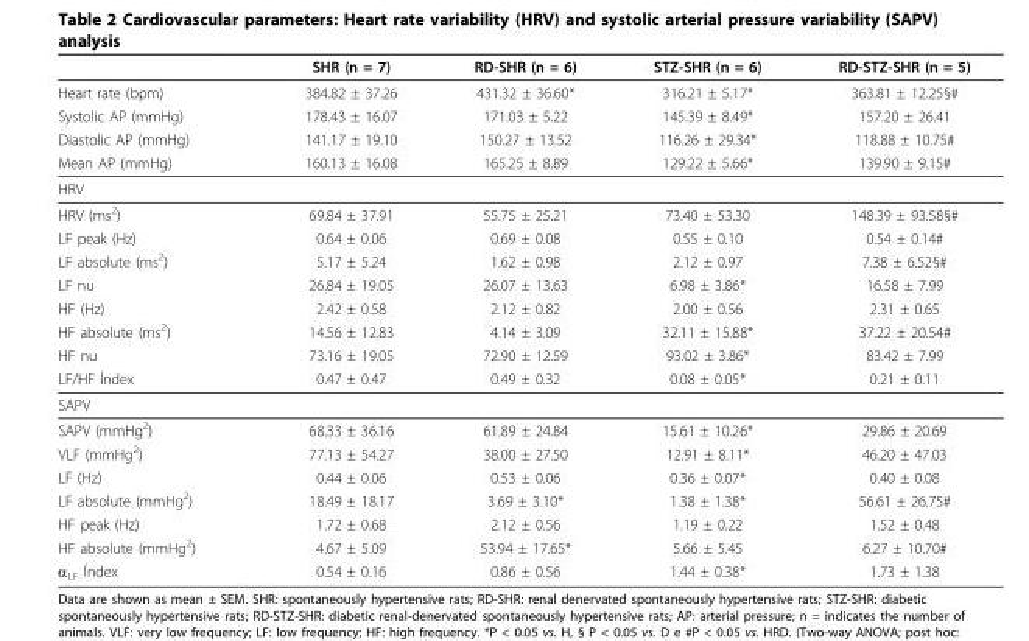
<table><thead><tr><td></td><td>SHR (n = 7)</td><td>RD-SHR (n = 6)</td><td>STZ-SHR (n = 6)</td><td>RD-STZ-SHR (n = 5)</td></tr></thead><tbody><tr><td>Heart rate (bpm)</td><td>384.82 ± 37.26</td><td>431.32 ± 36.60*</td><td>316.21 ± 5.17*</td><td>363.81 ± 12.25§#</td></tr><tr><td>Systolic AP (mmHg)</td><td>178.43 ± 16.07</td><td>171.03 ± 5.22</td><td>145.39 ± 8.49*</td><td>157.20 ± 26.41</td></tr><tr><td>Diastolic AP (mmHg)</td><td>141.17 ± 19.10</td><td>150.27 ± 13.52</td><td>116.26 ± 29.34*</td><td>118.88 ± 10.75#</td></tr><tr><td>Mean AP (mmHg)</td><td>160.13 ± 16.08</td><td>165.25 ± 8.89</td><td>129.22 ± 5.66*</td><td>139.90 ± 9.15#</td></tr><tr><td colspan="5">HRV</td></tr><tr><td>HRV (ms<sup>2</sup>)</td><td>69.84 ± 37.91</td><td>55.75 ± 25.21</td><td>73.40 ± 53.30</td><td>148.39 ± 93.58§#</td></tr><tr><td>LF peak (Hz)</td><td>0.64 ± 0.06</td><td>0.69 ± 0.08</td><td>0.55 ± 0.10</td><td>0.54 ± 0.14#</td></tr><tr><td>LF absolute (ms<sup>2</sup>)</td><td>5.17 ± 5.24</td><td>1.62 ± 0.98</td><td>2.12 ± 0.97</td><td>7.38 ± 6.52§#</td></tr><tr><td>LF nu</td><td>26.84 ± 19.05</td><td>26.07 ± 13.63</td><td>6.98 ± 3.86*</td><td>16.58 ± 7.99</td></tr><tr><td>HF (Hz)</td><td>2.42 ± 0.58</td><td>2.12 ± 0.82</td><td>2.00 ± 0.56</td><td>2.31 ± 0.65</td></tr><tr><td>HF absolute (ms<sup>2</sup>)</td><td>14.56 ± 12.83</td><td>4.14 ± 3.09</td><td>32.11 ± 15.88*</td><td>37.22 ± 20.54#</td></tr><tr><td>HF nu</td><td>73.16 ± 19.05</td><td>72.90 ± 12.59</td><td>93.02 ± 3.86*</td><td>83.42 ± 7.99</td></tr><tr><td>LF/HF Índex</td><td>0.47 ± 0.47</td><td>0.49 ± 0.32</td><td>0.08 ± 0.05*</td><td>0.21 ± 0.11</td></tr><tr><td colspan="5">SAPV</td></tr><tr><td>SAPV (mmHg<sup>2</sup>)</td><td>68.33 ± 36.16</td><td>61.89 ± 24.84</td><td>15.61 ± 10.26*</td><td>29.86 ± 20.69</td></tr><tr><td>VLF (mmHg<sup>2</sup>)</td><td>77.13 ± 54.27</td><td>38.00 ± 27.50</td><td>12.91 ± 8.11*</td><td>46.20 ± 47.03</td></tr><tr><td>LF (Hz)</td><td>0.44 ± 0.06</td><td>0.53 ± 0.06</td><td>0.36 ± 0.07*</td><td>0.40 ± 0.08</td></tr><tr><td>LF absolute (mmHg<sup>2</sup>)</td><td>18.49 ± 18.17</td><td>3.69 ± 3.10*</td><td>1.38 ± 1.38*</td><td>56.61 ± 26.75#</td></tr><tr><td>HF peak (Hz)</td><td>1.72 ± 0.68</td><td>2.12 ± 0.56</td><td>1.19 ± 0.22</td><td>1.52 ± 0.48</td></tr><tr><td>HF absolute (mmHg<sup>2</sup>)</td><td>4.67 ± 5.09</td><td>53.94 ± 17.65*</td><td>5.66 ± 5.45</td><td>6.27 ± 10.70#</td></tr><tr><td>α<sub>LF</sub> Índex</td><td>0.54 ± 0.16</td><td>0.86 ± 0.56</td><td>1.44 ± 0.38*</td><td>1.73 ± 1.38</td></tr></tbody></table>